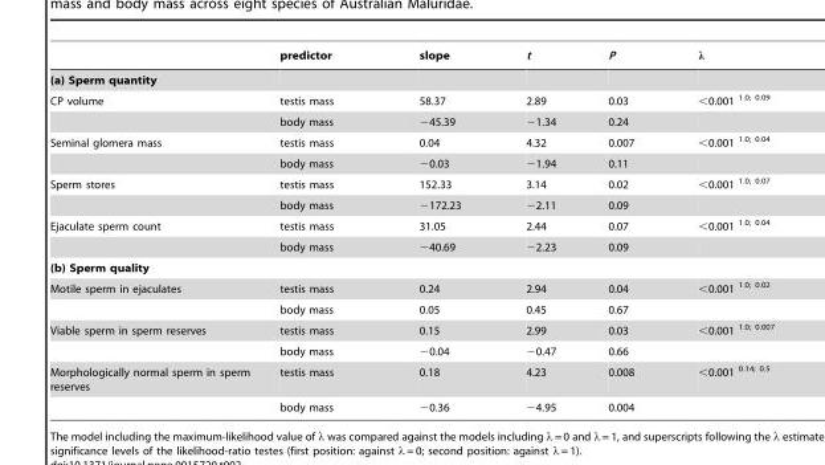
<table><thead><tr><td></td><td>predictor</td><td>slope</td><td>t</td><td>P</td><td>λ</td></tr></thead><tbody><tr><td colspan="6">(a) Sperm quantity</td></tr><tr><td rowspan="2">CP volume</td><td>testis mass</td><td>58.37</td><td>2.89</td><td>0.03</td><td>&lt;0.001 <sup>1.0; 0.09</sup></td></tr><tr><td>body mass</td><td>−45.39</td><td>−1.34</td><td>0.24</td><td></td></tr><tr><td rowspan="2">Seminal glomera mass</td><td>testis mass</td><td>0.04</td><td>4.32</td><td>0.007</td><td>&lt;0.001 <sup>1.0; 0.04</sup></td></tr><tr><td>body mass</td><td>−0.03</td><td>−1.94</td><td>0.11</td><td></td></tr><tr><td rowspan="2">Sperm stores</td><td>testis mass</td><td>152.33</td><td>3.14</td><td>0.02</td><td>&lt;0.001 <sup>1.0; 0.07</sup></td></tr><tr><td>body mass</td><td>−172.23</td><td>−2.11</td><td>0.09</td><td></td></tr><tr><td rowspan="2">Ejaculate sperm count</td><td>testis mass</td><td>31.05</td><td>2.44</td><td>0.07</td><td>&lt;0.001 <sup>1.0; 0.04</sup></td></tr><tr><td>body mass</td><td>−40.69</td><td>−2.23</td><td>0.09</td><td></td></tr><tr><td colspan="6">(b) Sperm quality</td></tr><tr><td rowspan="2">Motile sperm in ejaculates</td><td>testis mass</td><td>0.24</td><td>2.94</td><td>0.04</td><td>&lt;0.001 <sup>1.0; 0.02</sup></td></tr><tr><td>body mass</td><td>0.05</td><td>0.45</td><td>0.67</td><td></td></tr><tr><td rowspan="2">Viable sperm in sperm reserves</td><td>testis mass</td><td>0.15</td><td>2.99</td><td>0.03</td><td>&lt;0.001 <sup>1.0; 0.007</sup></td></tr><tr><td>body mass</td><td>−0.04</td><td>−0.47</td><td>0.66</td><td></td></tr><tr><td rowspan="2">Morphologically normal sperm in sperm reserves</td><td>testis mass</td><td>0.18</td><td>4.23</td><td>0.008</td><td>&lt;0.001 <sup>0.14; 0.5</sup></td></tr><tr><td>body mass</td><td>−0.36</td><td>−4.95</td><td>0.004</td><td></td></tr></tbody></table>